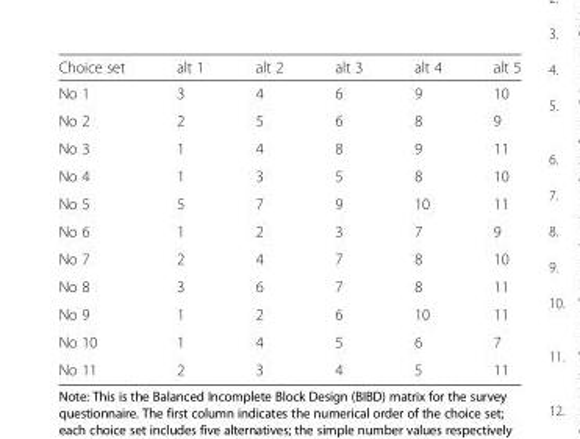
<table><thead><tr><td>Choice set</td><td>alt 1</td><td>alt 2</td><td>alt 3</td><td>alt 4</td><td>alt 5</td></tr></thead><tbody><tr><td>No 1</td><td>3</td><td>4</td><td>6</td><td>9</td><td>10</td></tr><tr><td>No 2</td><td>2</td><td>5</td><td>6</td><td>8</td><td>9</td></tr><tr><td>No 3</td><td>1</td><td>4</td><td>8</td><td>9</td><td>11</td></tr><tr><td>No 4</td><td>1</td><td>3</td><td>5</td><td>8</td><td>10</td></tr><tr><td>No 5</td><td>5</td><td>7</td><td>9</td><td>10</td><td>11</td></tr><tr><td>No 6</td><td>1</td><td>2</td><td>3</td><td>7</td><td>9</td></tr><tr><td>No 7</td><td>2</td><td>4</td><td>7</td><td>8</td><td>10</td></tr><tr><td>No 8</td><td>3</td><td>6</td><td>7</td><td>8</td><td>11</td></tr><tr><td>No 9</td><td>1</td><td>2</td><td>6</td><td>10</td><td>11</td></tr><tr><td>No 10</td><td>1</td><td>4</td><td>5</td><td>6</td><td>7</td></tr><tr><td>No 11</td><td>2</td><td>3</td><td>4</td><td>5</td><td>11</td></tr></tbody></table>